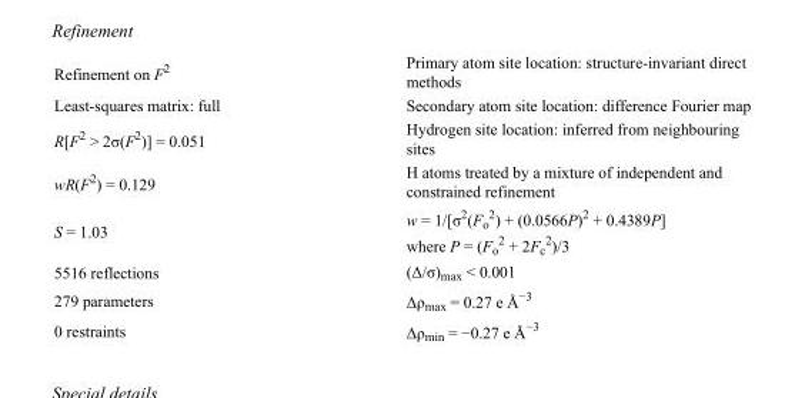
<table><tbody><tr><td>Refinement on F<sup>2</sup></td><td>Primary atom site location: structure-invariant direct methods</td></tr><tr><td>Least-squares matrix: full</td><td>Secondary atom site location: difference Fourier map</td></tr><tr><td>R[F<sup>2</sup> &gt; 2σ(F<sup>2</sup>)] = 0.051</td><td>Hydrogen site location: inferred from neighbouring sites</td></tr><tr><td>wR(F<sup>2</sup>) = 0.129</td><td>H atoms treated by a mixture of independent and constrained refinement</td></tr><tr><td>S = 1.03</td><td>w = 1/[σ<sup>2</sup>(F<sub>o</sub> <sup>2</sup>) + (0.0566P)<sup>2</sup> + 0.4389P] where P = (F<sub>o</sub> <sup>2</sup> + 2F<sub>c</sub> <sup>2</sup>)/3</td></tr><tr><td>5516 reflections</td><td>(Δ/σ)<sub>max</sub> &lt; 0.001</td></tr><tr><td>279 parameters</td><td>Δρ<sub>max</sub> = 0.27 e Å<sup>−3</sup></td></tr><tr><td>0 restraints</td><td>Δρ<sub>min</sub> = −0.27 e Å<sup>−3</sup></td></tr></tbody></table>